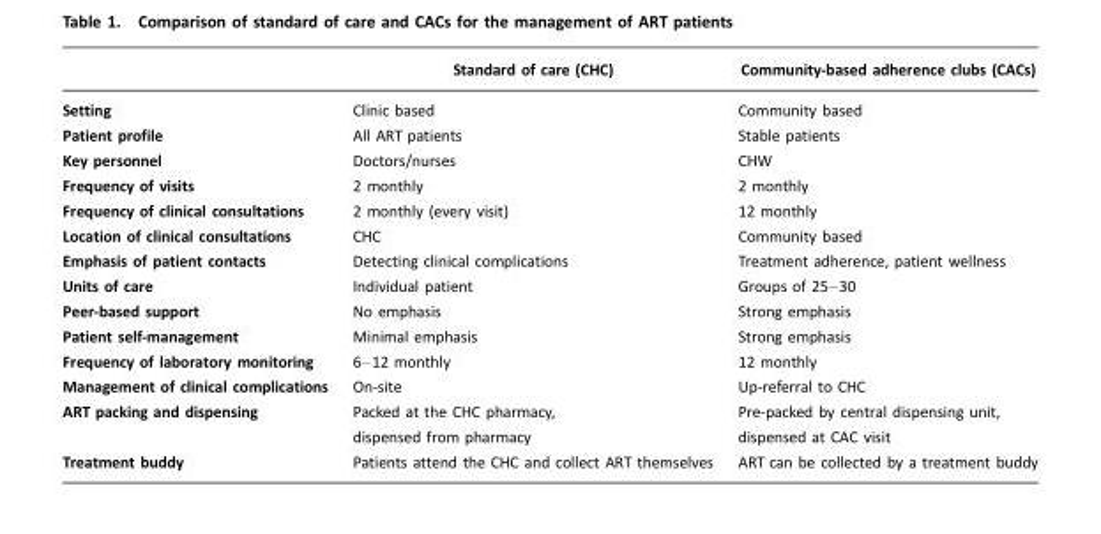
<table><thead><tr><td></td><td>Standard of care (CHC)</td><td>Community-based adherence clubs (CACs)</td></tr></thead><tbody><tr><td>Setting</td><td>Clinic based</td><td>Community based</td></tr><tr><td>Patient profile</td><td>All ART patients</td><td>Stable patients</td></tr><tr><td>Key personnel</td><td>Doctors/nurses</td><td>CHW</td></tr><tr><td>Frequency of visits</td><td>2 monthly</td><td>2 monthly</td></tr><tr><td>Frequency of clinical consultations</td><td>2 monthly (every visit)</td><td>12 monthly</td></tr><tr><td>Location of clinical consultations</td><td>CHC</td><td>Community based</td></tr><tr><td>Emphasis of patient contacts</td><td>Detecting clinical complications</td><td>Treatment adherence, patient wellness</td></tr><tr><td>Units of care</td><td>Individual patient</td><td>Groups of 25–30</td></tr><tr><td>Peer-based support</td><td>No emphasis</td><td>Strong emphasis</td></tr><tr><td>Patient self-management</td><td>Minimal emphasis</td><td>Strong emphasis</td></tr><tr><td>Frequency of laboratory monitoring</td><td>6–12 monthly</td><td>12 monthly</td></tr><tr><td>Management of clinical complications</td><td>On-site</td><td>Up-referral to CHC</td></tr><tr><td>ART packing and dispensing</td><td>Packed at the CHC pharmacy, dispensed from pharmacy</td><td>Pre-packed by central dispensing unit, dispensed at CAC visit</td></tr><tr><td>Treatment buddy</td><td>Patients attend the CHC and collect ART themselves</td><td>ART can be collected by a treatment buddy</td></tr></tbody></table>